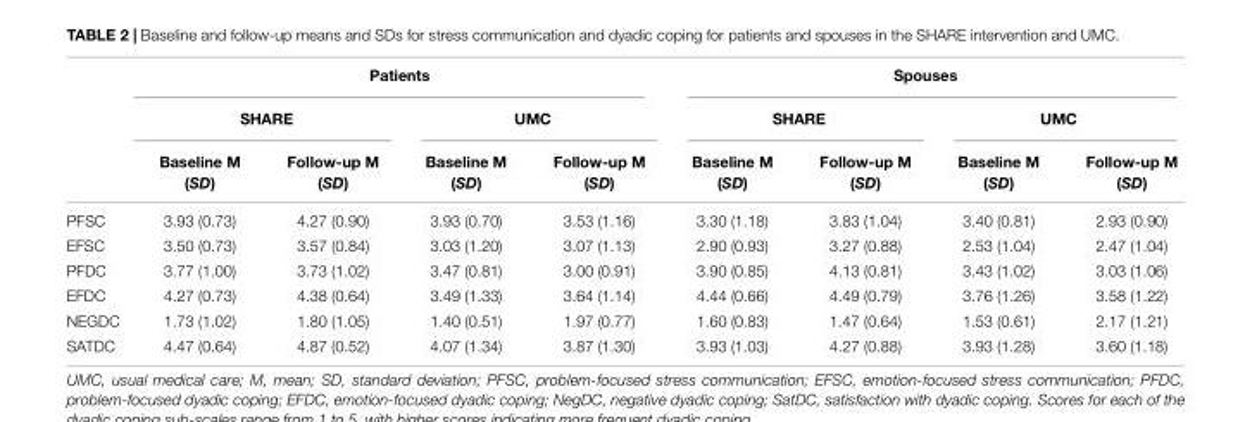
<table><thead><tr><td rowspan="3"></td><td colspan="4">Patients</td><td colspan="4">Spouses</td></tr><tr><td colspan="2">SHARE</td><td colspan="2">UMC</td><td colspan="2">SHARE</td><td colspan="2">UMC</td></tr><tr><td>Baseline M (SD)</td><td>Follow-up M (SD)</td><td>Baseline M (SD)</td><td>Follow-up M (SD)</td><td>Baseline M (SD)</td><td>Follow-up M (SD)</td><td>Baseline M (SD)</td><td>Follow-up M (SD)</td></tr></thead><tbody><tr><td>PFSC</td><td>3.93 (0.73)</td><td>4.27 (0.90)</td><td>3.93 (0.70)</td><td>3.53 (1.16)</td><td>3.30 (1.18)</td><td>3.83 (1.04)</td><td>3.40 (0.81)</td><td>2.93 (0.90)</td></tr><tr><td>EFSC</td><td>3.50 (0.73)</td><td>3.57 (0.84)</td><td>3.03 (1.20)</td><td>3.07 (1.13)</td><td>2.90 (0.93)</td><td>3.27 (0.88)</td><td>2.53 (1.04)</td><td>2.47 (1.04)</td></tr><tr><td>PFDC</td><td>3.77 (1.00)</td><td>3.73 (1.02)</td><td>3.47 (0.81)</td><td>3.00 (0.91)</td><td>3.90 (0.85)</td><td>4.13 (0.81)</td><td>3.43 (1.02)</td><td>3.03 (1.06)</td></tr><tr><td>EFDC</td><td>4.27 (0.73)</td><td>4.38 (0.64)</td><td>3.49 (1.33)</td><td>3.64 (1.14)</td><td>4.44 (0.66)</td><td>4.49 (0.79)</td><td>3.76 (1.26)</td><td>3.58 (1.22)</td></tr><tr><td>NEGDC</td><td>1.73 (1.02)</td><td>1.80 (1.05)</td><td>1.40 (0.51)</td><td>1.97 (0.77)</td><td>1.60 (0.83)</td><td>1.47 (0.64)</td><td>1.53 (0.61)</td><td>2.17 (1.21)</td></tr><tr><td>SATDC</td><td>4.47 (0.64)</td><td>4.87 (0.52)</td><td>4.07 (1.34)</td><td>3.87 (1.30)</td><td>3.93 (1.03)</td><td>4.27 (0.88)</td><td>3.93 (1.28)</td><td>3.60 (1.18)</td></tr></tbody></table>